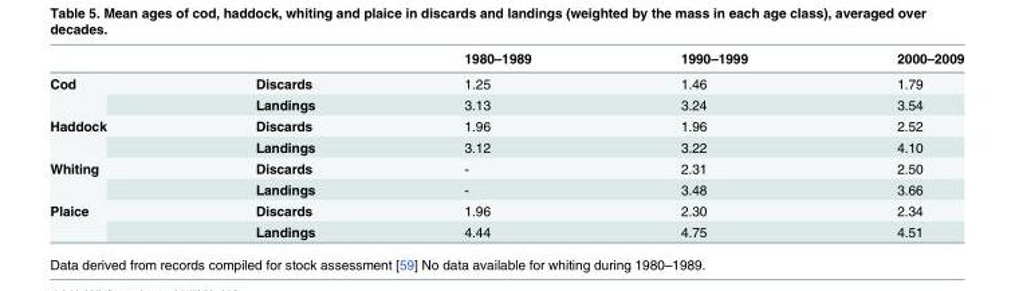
<table><thead><tr><td></td><td></td><td>1980–1989</td><td>1990–1999</td><td>2000–2009</td></tr></thead><tbody><tr><td rowspan="2">Cod</td><td>Discards</td><td>1.25</td><td>1.46</td><td>1.79</td></tr><tr><td>Landings</td><td>3.13</td><td>3.24</td><td>3.54</td></tr><tr><td rowspan="2">Haddock</td><td>Discards</td><td>1.96</td><td>1.96</td><td>2.52</td></tr><tr><td>Landings</td><td>3.12</td><td>3.22</td><td>4.10</td></tr><tr><td rowspan="2">Whiting</td><td>Discards</td><td>-</td><td>2.31</td><td>2.50</td></tr><tr><td>Landings</td><td>-</td><td>3.48</td><td>3.66</td></tr><tr><td rowspan="2">Plaice</td><td>Discards</td><td>1.96</td><td>2.30</td><td>2.34</td></tr><tr><td>Landings</td><td>4.44</td><td>4.75</td><td>4.51</td></tr></tbody></table>